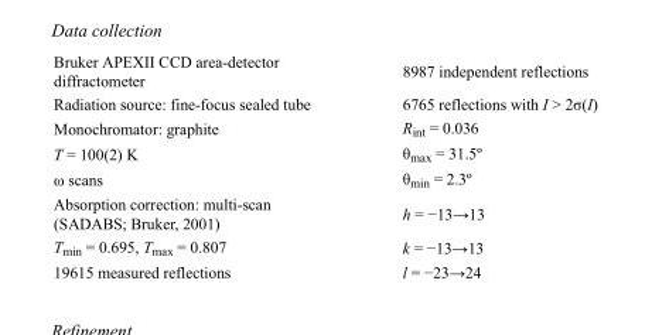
<table><tbody><tr><td>Bruker APEXII CCD area-detector diffractometer</td><td>8987 independent reflections</td></tr><tr><td>Radiation source: fine-focus sealed tube</td><td>6765 reflections with I &gt; 2σ(I)</td></tr><tr><td>Monochromator: graphite</td><td>R<sub>int</sub> = 0.036</td></tr><tr><td>T = 100(2) K</td><td>θ<sub>max</sub> = 31.5º</td></tr><tr><td>ω scans</td><td>θ<sub>min</sub> = 2.3º</td></tr><tr><td>Absorption correction: multi-scan (SADABS; Bruker, 2001)</td><td>h = −13→13</td></tr><tr><td>T<sub>min</sub> = 0.695, T<sub>max</sub> = 0.807</td><td>k = −13→13</td></tr><tr><td>19615 measured reflections</td><td>l = −23→24</td></tr></tbody></table>